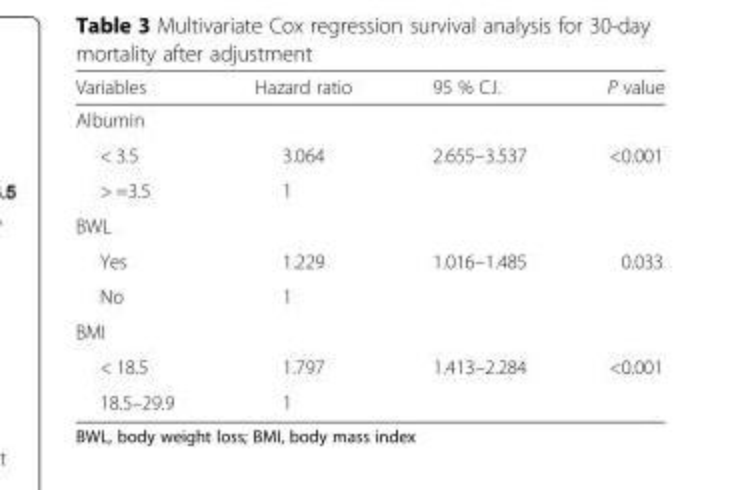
<table><thead><tr><td>Variables</td><td>Hazard ratio</td><td>95 % C.I.</td><td>P value</td></tr></thead><tbody><tr><td colspan="4">Albumin</td></tr><tr><td>&lt; 3.5</td><td>3.064</td><td>2.655–3.537</td><td>&lt;0.001</td></tr><tr><td>&gt; =3.5</td><td>1</td><td></td><td></td></tr><tr><td colspan="4">BWL</td></tr><tr><td>Yes</td><td>1.229</td><td>1.016–1.485</td><td>0.033</td></tr><tr><td>No</td><td>1</td><td></td><td></td></tr><tr><td colspan="4">BMI</td></tr><tr><td>&lt; 18.5</td><td>1.797</td><td>1.413–2.284</td><td>&lt;0.001</td></tr><tr><td>18.5–29.9</td><td>1</td><td></td><td></td></tr></tbody></table>